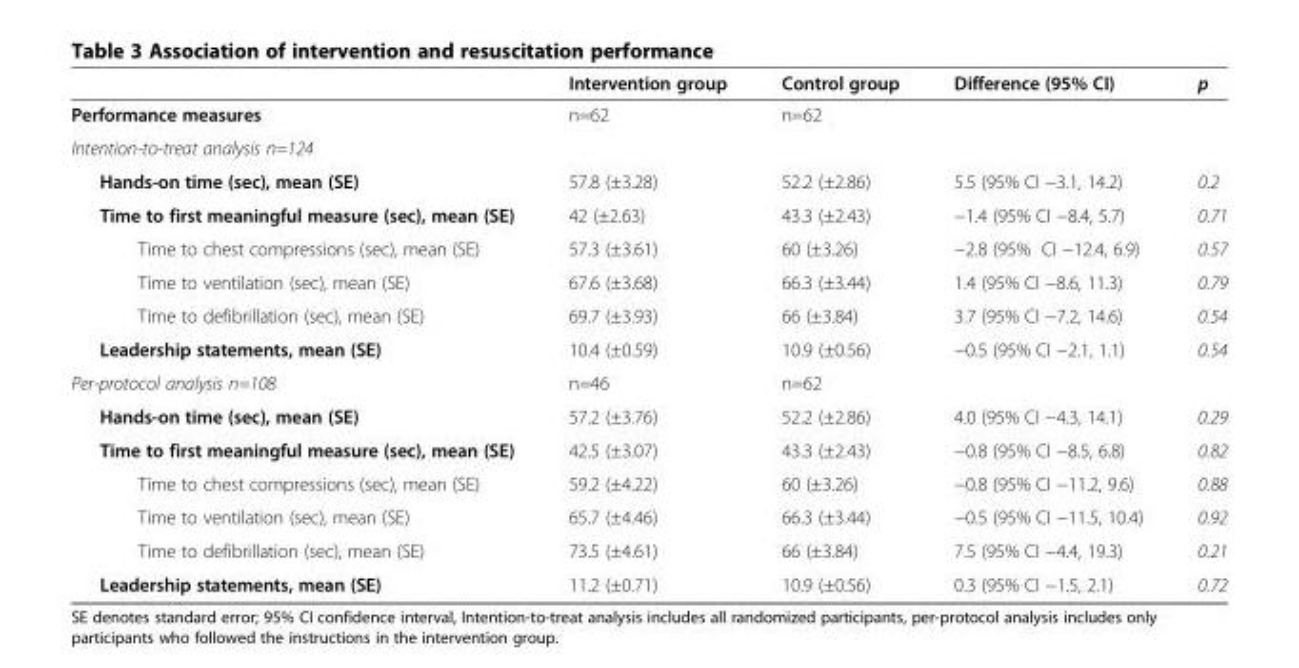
<table><thead><tr><td></td><td>Intervention group</td><td>Control group</td><td>Difference (95% CI)</td><td>p</td></tr></thead><tbody><tr><td>Performance measures</td><td>n=62</td><td>n=62</td><td></td><td></td></tr><tr><td colspan="5">Intention-to-treat analysis n=124</td></tr><tr><td>Hands-on time (sec), mean (SE)</td><td>57.8 (±3.28)</td><td>52.2 (±2.86)</td><td>5.5 (95% CI −3.1, 14.2)</td><td>0.2</td></tr><tr><td>Time to first meaningful measure (sec), mean (SE)</td><td>42 (±2.63)</td><td>43.3 (±2.43)</td><td>−1.4 (95% CI −8.4, 5.7)</td><td>0.71</td></tr><tr><td>Time to chest compressions (sec), mean (SE)</td><td>57.3 (±3.61)</td><td>60 (±3.26)</td><td>−2.8 (95% CI −12.4, 6.9)</td><td>0.57</td></tr><tr><td>Time to ventilation (sec), mean (SE)</td><td>67.6 (±3.68)</td><td>66.3 (±3.44)</td><td>1.4 (95% CI −8.6, 11.3)</td><td>0.79</td></tr><tr><td>Time to defibrillation (sec), mean (SE)</td><td>69.7 (±3.93)</td><td>66 (±3.84)</td><td>3.7 (95% CI −7.2, 14.6)</td><td>0.54</td></tr><tr><td>Leadership statements, mean (SE)</td><td>10.4 (±0.59)</td><td>10.9 (±0.56)</td><td>−0.5 (95% CI −2.1, 1.1)</td><td>0.54</td></tr><tr><td>Per-protocol analysis n=108</td><td>n=46</td><td>n=62</td><td></td><td></td></tr><tr><td>Hands-on time (sec), mean (SE)</td><td>57.2 (±3.76)</td><td>52.2 (±2.86)</td><td>4.0 (95% CI −4.3, 14.1)</td><td>0.29</td></tr><tr><td>Time to first meaningful measure (sec), mean (SE)</td><td>42.5 (±3.07)</td><td>43.3 (±2.43)</td><td>−0.8 (95% CI −8.5, 6.8)</td><td>0.82</td></tr><tr><td>Time to chest compressions (sec), mean (SE)</td><td>59.2 (±4.22)</td><td>60 (±3.26)</td><td>−0.8 (95% CI −11.2, 9.6)</td><td>0.88</td></tr><tr><td>Time to ventilation (sec), mean (SE)</td><td>65.7 (±4.46)</td><td>66.3 (±3.44)</td><td>−0.5 (95% CI −11.5, 10.4)</td><td>0.92</td></tr><tr><td>Time to defibrillation (sec), mean (SE)</td><td>73.5 (±4.61)</td><td>66 (±3.84)</td><td>7.5 (95% CI −4.4, 19.3)</td><td>0.21</td></tr><tr><td>Leadership statements, mean (SE)</td><td>11.2 (±0.71)</td><td>10.9 (±0.56)</td><td>0.3 (95% CI −1.5, 2.1)</td><td>0.72</td></tr></tbody></table>